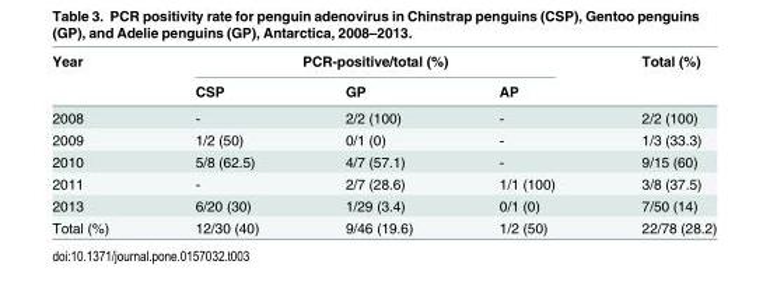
<table><thead><tr><td rowspan="2">Year</td><td colspan="3">PCR-positive/total (%)</td><td rowspan="2">Total (%)</td></tr><tr><td>CSP</td><td>GP</td><td>AP</td></tr></thead><tbody><tr><td>2008</td><td>-</td><td>2/2 (100)</td><td>-</td><td>2/2 (100)</td></tr><tr><td>2009</td><td>1/2 (50)</td><td>0/1 (0)</td><td>-</td><td>1/3 (33.3)</td></tr><tr><td>2010</td><td>5/8 (62.5)</td><td>4/7 (57.1)</td><td>-</td><td>9/15 (60)</td></tr><tr><td>2011</td><td>-</td><td>2/7 (28.6)</td><td>1/1 (100)</td><td>3/8 (37.5)</td></tr><tr><td>2013</td><td>6/20 (30)</td><td>1/29 (3.4)</td><td>0/1 (0)</td><td>7/50 (14)</td></tr><tr><td>Total (%)</td><td>12/30 (40)</td><td>9/46 (19.6)</td><td>1/2 (50)</td><td>22/78 (28.2)</td></tr></tbody></table>